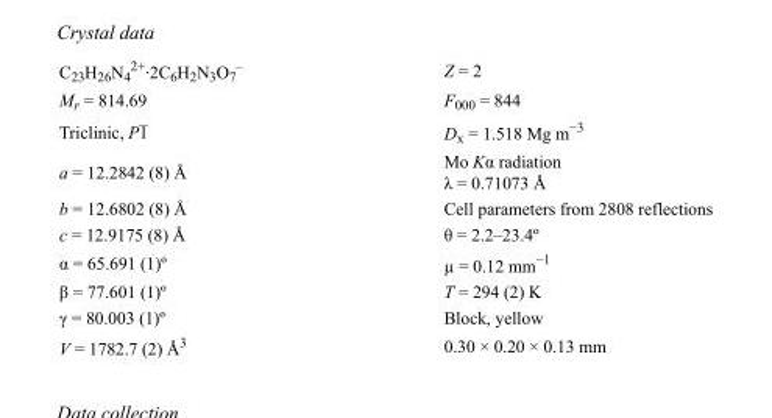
<table><tbody><tr><td>C<sub>23</sub>H<sub>26</sub>N<sub>4</sub> <sup>2+</sup>·2C<sub>6</sub>H<sub>2</sub>N<sub>3</sub>O<sub>7</sub> <sup>–</sup></td><td>Z = 2</td></tr><tr><td>M<sub>r</sub> = 814.69</td><td>F<sub>000</sub> = 844</td></tr><tr><td>Triclinic, P1</td><td>D<sub>x</sub> = 1.518 Mg m<sup>−3</sup></td></tr><tr><td>a = 12.2842 (8) Å</td><td>Mo Kα radiation λ = 0.71073 Å</td></tr><tr><td>b = 12.6802 (8) Å</td><td>Cell parameters from 2808 reflections</td></tr><tr><td>c = 12.9175 (8) Å</td><td>θ = 2.2–23.4º</td></tr><tr><td>α = 65.691 (1)º</td><td>µ = 0.12 mm<sup>−1</sup></td></tr><tr><td>β = 77.601 (1)º</td><td>T = 294 (2) K</td></tr><tr><td>γ = 80.003 (1)º</td><td>Block, yellow</td></tr><tr><td>V = 1782.7 (2) Å<sup>3</sup></td><td>0.30 × 0.20 × 0.13 mm</td></tr></tbody></table>